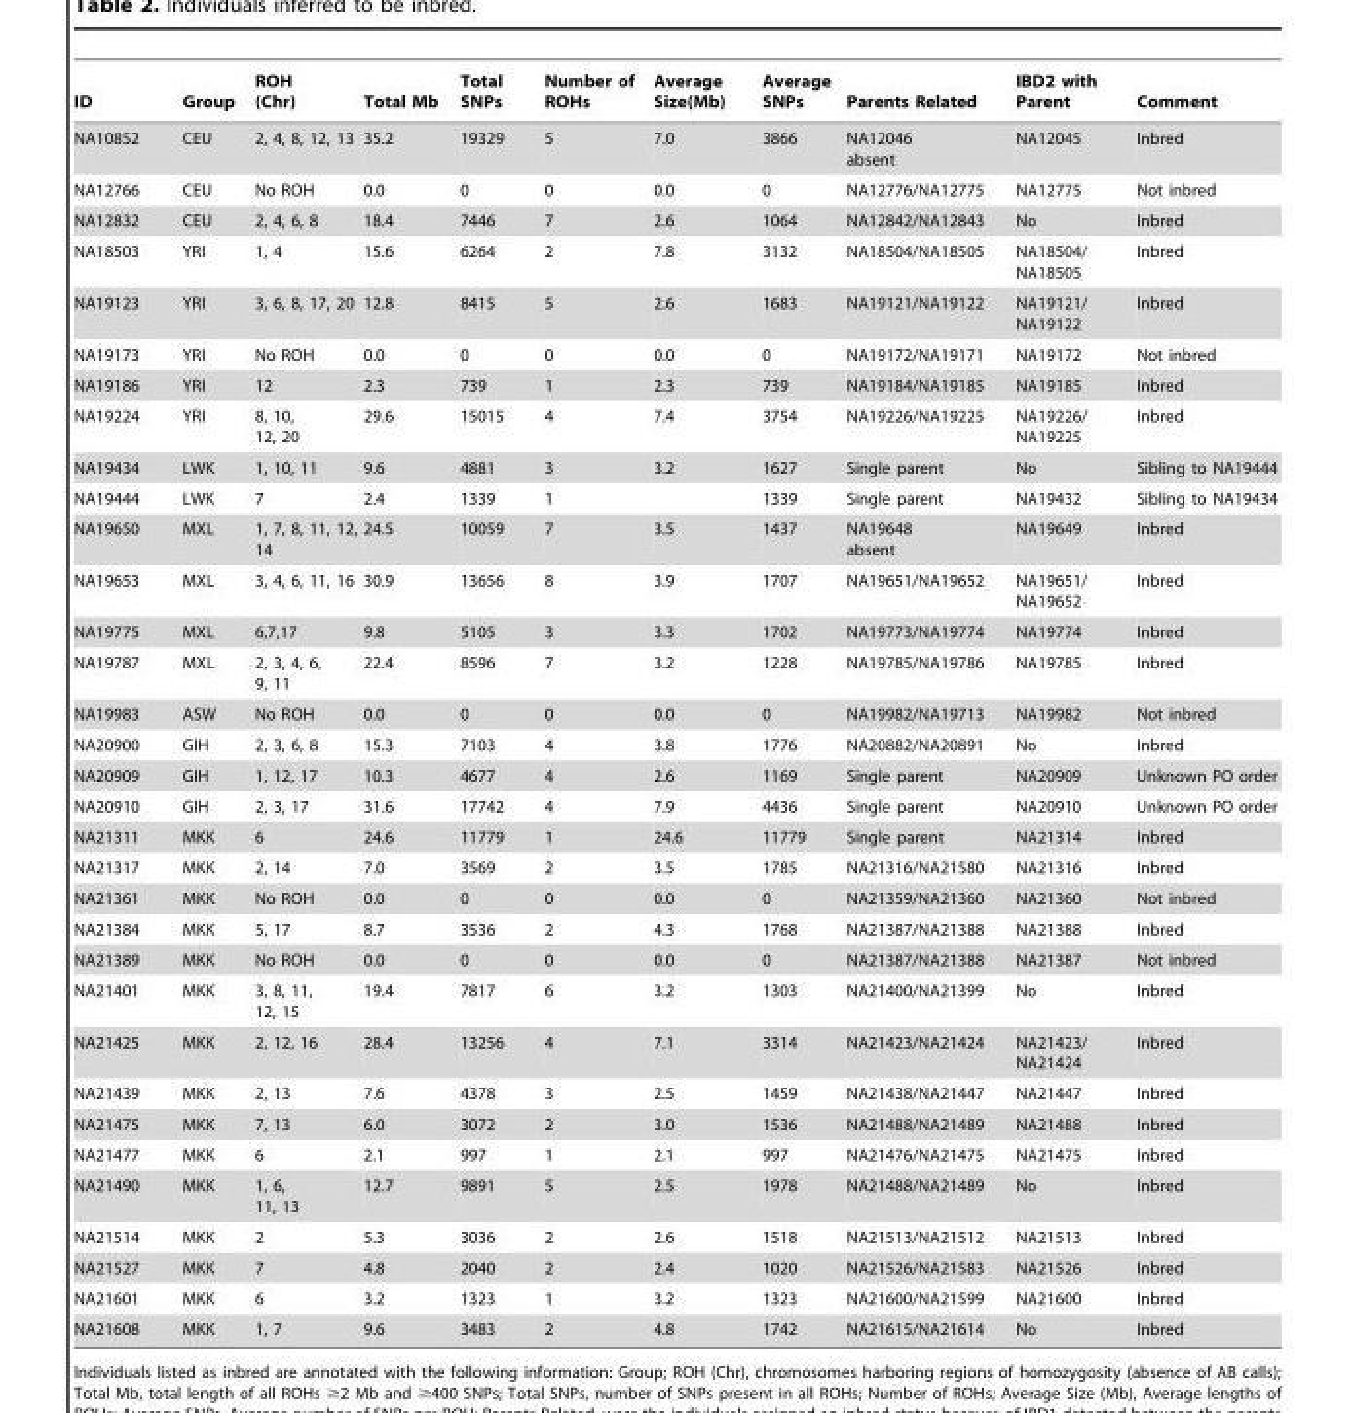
<table><thead><tr><td>ID</td><td>Group</td><td>ROH (Chr)</td><td>Total Mb</td><td>Total SNPs</td><td>Number of ROHs</td><td>Average Size(Mb)</td><td>Average SNPs</td><td>Parents Related</td><td>IBD2 with Parent</td><td>Comment</td></tr></thead><tbody><tr><td>NA10852</td><td>CEU</td><td>2, 4, 8, 12, 13</td><td>35.2</td><td>19329</td><td>5</td><td>7.0</td><td>3866</td><td>NA12046 absent</td><td>NA12045</td><td>Inbred</td></tr><tr><td>NA12766</td><td>CEU</td><td>No ROH</td><td>0.0</td><td>0</td><td>0</td><td>0.0</td><td>0</td><td>NA12776/NA12775</td><td>NA12775</td><td>Not inbred</td></tr><tr><td>NA12832</td><td>CEU</td><td>2, 4, 6, 8</td><td>18.4</td><td>7446</td><td>7</td><td>2.6</td><td>1064</td><td>NA12842/NA12843</td><td>No</td><td>Inbred</td></tr><tr><td>NA18503</td><td>YRI</td><td>1, 4</td><td>15.6</td><td>6264</td><td>2</td><td>7.8</td><td>3132</td><td>NA18504/NA18505</td><td>NA18504/ NA18505</td><td>Inbred</td></tr><tr><td>NA19123</td><td>YRI</td><td>3, 6, 8, 17, 20</td><td>12.8</td><td>8415</td><td>5</td><td>2.6</td><td>1683</td><td>NA19121/NA19122</td><td>NA19121/ NA19122</td><td>Inbred</td></tr><tr><td>NA19173</td><td>YRI</td><td>No ROH</td><td>0.0</td><td>0</td><td>0</td><td>0.0</td><td>0</td><td>NA19172/NA19171</td><td>NA19172</td><td>Not inbred</td></tr><tr><td>NA19186</td><td>YRI</td><td>12</td><td>2.3</td><td>739</td><td>1</td><td>2.3</td><td>739</td><td>NA19184/NA19185</td><td>NA19185</td><td>Inbred</td></tr><tr><td>NA19224</td><td>YRI</td><td>8, 10, 12, 20</td><td>29.6</td><td>15015</td><td>4</td><td>7.4</td><td>3754</td><td>NA19226/NA19225</td><td>NA19226/ NA19225</td><td>Inbred</td></tr><tr><td>NA19434</td><td>LWK</td><td>1, 10, 11</td><td>9.6</td><td>4881</td><td>3</td><td>3.2</td><td>1627</td><td>Single parent</td><td>No</td><td>Sibling to NA19444</td></tr><tr><td>NA19444</td><td>LWK</td><td>7</td><td>2.4</td><td>1339</td><td>1</td><td></td><td>1339</td><td>Single parent</td><td>NA19432</td><td>Sibling to NA19434</td></tr><tr><td>NA19650</td><td>MXL</td><td>1, 7, 8, 11, 12, 14</td><td>24.5</td><td>10059</td><td>7</td><td>3.5</td><td>1437</td><td>NA19648 absent</td><td>NA19649</td><td>Inbred</td></tr><tr><td>NA19653</td><td>MXL</td><td>3, 4, 6, 11, 16</td><td>30.9</td><td>13656</td><td>8</td><td>3.9</td><td>1707</td><td>NA19651/NA19652</td><td>NA19651/ NA19652</td><td>Inbred</td></tr><tr><td>NA19775</td><td>MXL</td><td>6,7,17</td><td>9.8</td><td>5105</td><td>3</td><td>3.3</td><td>1702</td><td>NA19773/NA19774</td><td>NA19774</td><td>Inbred</td></tr><tr><td>NA19787</td><td>MXL</td><td>2, 3, 4, 6, 9, 11</td><td>22.4</td><td>8596</td><td>7</td><td>3.2</td><td>1228</td><td>NA19785/NA19786</td><td>NA19785</td><td>Inbred</td></tr><tr><td>NA19983</td><td>ASW</td><td>No ROH</td><td>0.0</td><td>0</td><td>0</td><td>0.0</td><td>0</td><td>NA19982/NA19713</td><td>NA19982</td><td>Not inbred</td></tr><tr><td>NA20900</td><td>GIH</td><td>2, 3, 6, 8</td><td>15.3</td><td>7103</td><td>4</td><td>3.8</td><td>1776</td><td>NA20882/NA20891</td><td>No</td><td>Inbred</td></tr><tr><td>NA20909</td><td>GIH</td><td>1, 12, 17</td><td>10.3</td><td>4677</td><td>4</td><td>2.6</td><td>1169</td><td>Single parent</td><td>NA20909</td><td>Unknown PO order</td></tr><tr><td>NA20910</td><td>GIH</td><td>2, 3, 17</td><td>31.6</td><td>17742</td><td>4</td><td>7.9</td><td>4436</td><td>Single parent</td><td>NA20910</td><td>Unknown PO order</td></tr><tr><td>NA21311</td><td>MKK</td><td>6</td><td>24.6</td><td>11779</td><td>1</td><td>24.6</td><td>11779</td><td>Single parent</td><td>NA21314</td><td>Inbred</td></tr><tr><td>NA21317</td><td>MKK</td><td>2, 14</td><td>7.0</td><td>3569</td><td>2</td><td>3.5</td><td>1785</td><td>NA21316/NA21580</td><td>NA21316</td><td>Inbred</td></tr><tr><td>NA21361</td><td>MKK</td><td>No ROH</td><td>0.0</td><td>0</td><td>0</td><td>0.0</td><td>0</td><td>NA21359/NA21360</td><td>NA21360</td><td>Not inbred</td></tr><tr><td>NA21384</td><td>MKK</td><td>5, 17</td><td>8.7</td><td>3536</td><td>2</td><td>4.3</td><td>1768</td><td>NA21387/NA21388</td><td>NA21388</td><td>Inbred</td></tr><tr><td>NA21389</td><td>MKK</td><td>No ROH</td><td>0.0</td><td>0</td><td>0</td><td>0.0</td><td>0</td><td>NA21387/NA21388</td><td>NA21387</td><td>Not inbred</td></tr><tr><td>NA21401</td><td>MKK</td><td>3, 8, 11, 12, 15</td><td>19.4</td><td>7817</td><td>6</td><td>3.2</td><td>1303</td><td>NA21400/NA21399</td><td>No</td><td>Inbred</td></tr><tr><td>NA21425</td><td>MKK</td><td>2, 12, 16</td><td>28.4</td><td>13256</td><td>4</td><td>7.1</td><td>3314</td><td>NA21423/NA21424</td><td>NA21423/ NA21424</td><td>Inbred</td></tr><tr><td>NA21439</td><td>MKK</td><td>2, 13</td><td>7.6</td><td>4378</td><td>3</td><td>2.5</td><td>1459</td><td>NA21438/NA21447</td><td>NA21447</td><td>Inbred</td></tr><tr><td>NA21475</td><td>MKK</td><td>7, 13</td><td>6.0</td><td>3072</td><td>2</td><td>3.0</td><td>1536</td><td>NA21488/NA21489</td><td>NA21488</td><td>Inbred</td></tr><tr><td>NA21477</td><td>MKK</td><td>6</td><td>2.1</td><td>997</td><td>1</td><td>2.1</td><td>997</td><td>NA21476/NA21475</td><td>NA21475</td><td>Inbred</td></tr><tr><td>NA21490</td><td>MKK</td><td>1, 6, 11, 13</td><td>12.7</td><td>9891</td><td>5</td><td>2.5</td><td>1978</td><td>NA21488/NA21489</td><td>No</td><td>Inbred</td></tr><tr><td>NA21514</td><td>MKK</td><td>2</td><td>5.3</td><td>3036</td><td>2</td><td>2.6</td><td>1518</td><td>NA21513/NA21512</td><td>NA21513</td><td>Inbred</td></tr><tr><td>NA21527</td><td>MKK</td><td>7</td><td>4.8</td><td>2040</td><td>2</td><td>2.4</td><td>1020</td><td>NA21526/NA21583</td><td>NA21526</td><td>Inbred</td></tr><tr><td>NA21601</td><td>MKK</td><td>6</td><td>3.2</td><td>1323</td><td>1</td><td>3.2</td><td>1323</td><td>NA21600/NA21599</td><td>NA21600</td><td>Inbred</td></tr><tr><td>NA21608</td><td>MKK</td><td>1, 7</td><td>9.6</td><td>3483</td><td>2</td><td>4.8</td><td>1742</td><td>NA21615/NA21614</td><td>No</td><td>Inbred</td></tr></tbody></table>